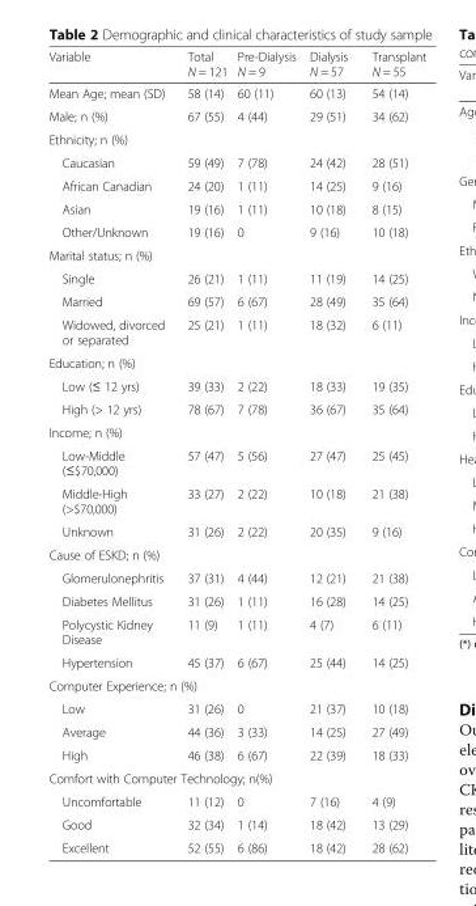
<table><thead><tr><td>Variable</td><td>Total N = 121</td><td>Pre-Dialysis N = 9</td><td>Dialysis N = 57</td><td>Transplant N = 55</td></tr></thead><tbody><tr><td>Mean Age; mean (SD)</td><td>58 (14)</td><td>60 (11)</td><td>60 (13)</td><td>54 (14)</td></tr><tr><td>Male; n (%)</td><td>67 (55)</td><td>4 (44)</td><td>29 (51)</td><td>34 (62)</td></tr><tr><td colspan="5">Ethnicity; n (%)</td></tr><tr><td>Caucasian</td><td>59 (49)</td><td>7 (78)</td><td>24 (42)</td><td>28 (51)</td></tr><tr><td>African Canadian</td><td>24 (20)</td><td>1 (11)</td><td>14 (25)</td><td>9 (16)</td></tr><tr><td>Asian</td><td>19 (16)</td><td>1 (11)</td><td>10 (18)</td><td>8 (15)</td></tr><tr><td>Other/Unknown</td><td>19 (16)</td><td>0</td><td>9 (16)</td><td>10 (18)</td></tr><tr><td colspan="5">Marital status; n (%)</td></tr><tr><td>Single</td><td>26 (21)</td><td>1 (11)</td><td>11 (19)</td><td>14 (25)</td></tr><tr><td>Married</td><td>69 (57)</td><td>6 (67)</td><td>28 (49)</td><td>35 (64)</td></tr><tr><td>Widowed, divorced or separated</td><td>25 (21)</td><td>1 (11)</td><td>18 (32)</td><td>6 (11)</td></tr><tr><td colspan="5">Education; n (%)</td></tr><tr><td>Low (≤ 12 yrs)</td><td>39 (33)</td><td>2 (22)</td><td>18 (33)</td><td>19 (35)</td></tr><tr><td>High (&gt; 12 yrs)</td><td>78 (67)</td><td>7 (78)</td><td>36 (67)</td><td>35 (64)</td></tr><tr><td colspan="5">Income; n (%)</td></tr><tr><td>Low-Middle (≤$70,000)</td><td>57 (47)</td><td>5 (56)</td><td>27 (47)</td><td>25 (45)</td></tr><tr><td>Middle-High (&gt;$70,000)</td><td>33 (27)</td><td>2 (22)</td><td>10 (18)</td><td>21 (38)</td></tr><tr><td>Unknown</td><td>31 (26)</td><td>2 (22)</td><td>20 (35)</td><td>9 (16)</td></tr><tr><td colspan="5">Cause of ESKD; n (%)</td></tr><tr><td>Glomerulonephritis</td><td>37 (31)</td><td>4 (44)</td><td>12 (21)</td><td>21 (38)</td></tr><tr><td>Diabetes Mellitus</td><td>31 (26)</td><td>1 (11)</td><td>16 (28)</td><td>14 (25)</td></tr><tr><td>Polycystic Kidney Disease</td><td>11 (9)</td><td>1 (11)</td><td>4 (7)</td><td>6 (11)</td></tr><tr><td>Hypertension</td><td>45 (37)</td><td>6 (67)</td><td>25 (44)</td><td>14 (25)</td></tr><tr><td colspan="5">Computer Experience; n (%)</td></tr><tr><td>Low</td><td>31 (26)</td><td>0</td><td>21 (37)</td><td>10 (18)</td></tr><tr><td>Average</td><td>44 (36)</td><td>3 (33)</td><td>14 (25)</td><td>27 (49)</td></tr><tr><td>High</td><td>46 (38)</td><td>6 (67)</td><td>22 (39)</td><td>18 (33)</td></tr><tr><td colspan="5">Comfort with Computer Technology; n(%)</td></tr><tr><td>Uncomfortable</td><td>11 (12)</td><td>0</td><td>7 (16)</td><td>4 (9)</td></tr><tr><td>Good</td><td>32 (34)</td><td>1 (14)</td><td>18 (42)</td><td>13 (29)</td></tr><tr><td>Excellent</td><td>52 (55)</td><td>6 (86)</td><td>18 (42)</td><td>28 (62)</td></tr></tbody></table>